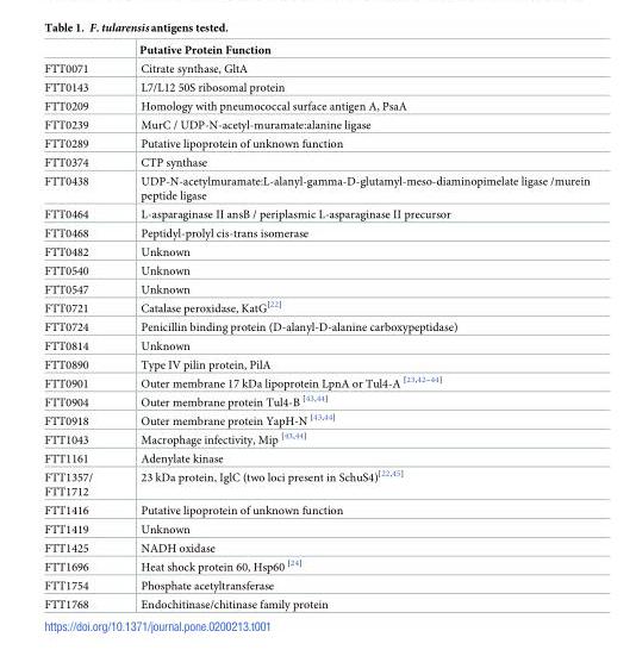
<table><thead><tr><td></td><td>Putative Protein Function</td></tr></thead><tbody><tr><td>FTT0071</td><td>Citrate synthase, GltA</td></tr><tr><td>FTT0143</td><td>L7/L12 50S ribosomal protein</td></tr><tr><td>FTT0209</td><td>Homology with pneumococcal surface antigen A, PsaA</td></tr><tr><td>FTT0239</td><td>MurC / UDP-N-acetyl-muramate:alanine ligase</td></tr><tr><td>FTT0289</td><td>Putative lipoprotein of unknown function</td></tr><tr><td>FTT0374</td><td>CTP synthase</td></tr><tr><td>FTT0438</td><td>UDP-N-acetylmuramate:L-alanyl-gamma-D-glutamyl-meso-diaminopimelate ligase /murein peptide ligase</td></tr><tr><td>FTT0464</td><td>L-asparaginase II ansB / periplasmic L-asparaginase II precursor</td></tr><tr><td>FTT0468</td><td>Peptidyl-prolyl cis-trans isomerase</td></tr><tr><td>FTT0482</td><td>Unknown</td></tr><tr><td>FTT0540</td><td>Unknown</td></tr><tr><td>FTT0547</td><td>Unknown</td></tr><tr><td>FTT0721</td><td>Catalase peroxidase, KatG<sup>[22]</sup></td></tr><tr><td>FTT0724</td><td>Penicillin binding protein (D-alanyl-D-alanine carboxypeptidase)</td></tr><tr><td>FTT0814</td><td>Unknown</td></tr><tr><td>FTT0890</td><td>Type IV pilin protein, PilA</td></tr><tr><td>FTT0901</td><td>Outer membrane 17 kDa lipoprotein LpnA or Tul4-A <sup>[23,42–44]</sup></td></tr><tr><td>FTT0904</td><td>Outer membrane protein Tul4-B <sup>[43,44]</sup></td></tr><tr><td>FTT0918</td><td>Outer membrane protein YapH-N <sup>[43,44]</sup></td></tr><tr><td>FTT1043</td><td>Macrophage infectivity, Mip <sup>[43,44]</sup></td></tr><tr><td>FTT1161</td><td>Adenylate kinase</td></tr><tr><td>FTT1357/ FTT1712</td><td>23 kDa protein, IglC (two loci present in SchuS4)<sup>[22,45]</sup></td></tr><tr><td>FTT1416</td><td>Putative lipoprotein of unknown function</td></tr><tr><td>FTT1419</td><td>Unknown</td></tr><tr><td>FTT1425</td><td>NADH oxidase</td></tr><tr><td>FTT1696</td><td>Heat shock protein 60, Hsp60 <sup>[24]</sup></td></tr><tr><td>FTT1754</td><td>Phosphate acetyltransferase</td></tr><tr><td>FTT1768</td><td>Endochitinase/chitinase family protein</td></tr></tbody></table>